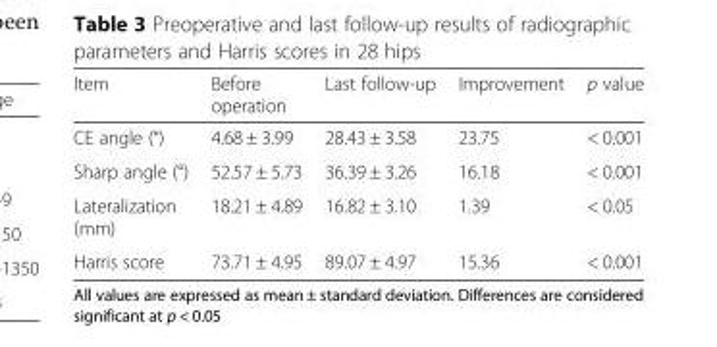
<table><thead><tr><td>Item</td><td>Before operation</td><td>Last follow-up</td><td>Improvement</td><td>p value</td></tr></thead><tbody><tr><td>CE angle (°)</td><td>4.68 ± 3.99</td><td>28.43 ± 3.58</td><td>23.75</td><td>&lt; 0.001</td></tr><tr><td>Sharp angle (°)</td><td>52.57 ± 5.73</td><td>36.39 ± 3.26</td><td>16.18</td><td>&lt; 0.001</td></tr><tr><td>Lateralization (mm)</td><td>18.21 ± 4.89</td><td>16.82 ± 3.10</td><td>1.39</td><td>&lt; 0.05</td></tr><tr><td>Harris score</td><td>73.71 ± 4.95</td><td>89.07 ± 4.97</td><td>15.36</td><td>&lt; 0.001</td></tr></tbody></table>